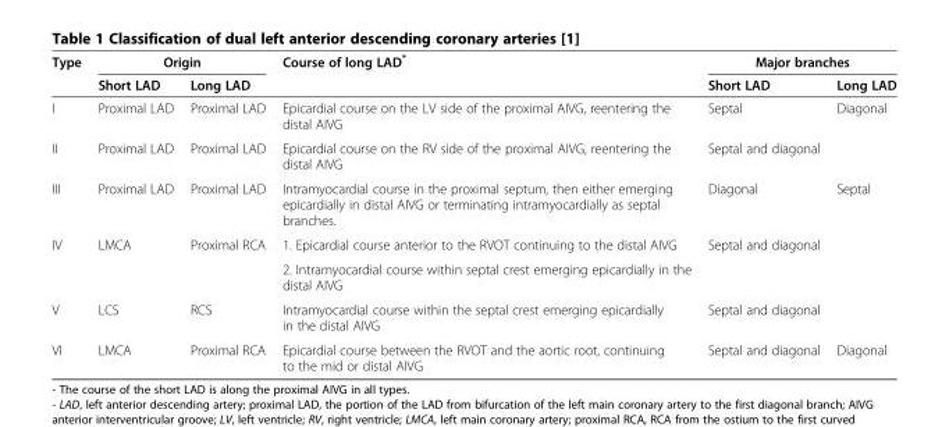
<table><thead><tr><td rowspan="2">Type</td><td colspan="2">Origin</td><td rowspan="2">Course of long LAD*</td><td colspan="2">Major branches</td></tr><tr><td>Short LAD</td><td>Long LAD</td><td>Short LAD</td><td>Long LAD</td></tr></thead><tbody><tr><td>I</td><td>Proximal LAD</td><td>Proximal LAD</td><td>Epicardial course on the LV side of the proximal AIVG, reentering the distal AIVG</td><td>Septal</td><td>Diagonal</td></tr><tr><td>II</td><td>Proximal LAD</td><td>Proximal LAD</td><td>Epicardial course on the RV side of the proximal AIVG, reentering the distal AIVG</td><td colspan="2">Septal and diagonal</td></tr><tr><td>III</td><td>Proximal LAD</td><td>Proximal LAD</td><td>Intramyocardial course in the proximal septum, then either emerging epicardially in distal AIVG or terminating intramyocardially as septal branches.</td><td>Diagonal</td><td>Septal</td></tr><tr><td rowspan="2">IV</td><td rowspan="2">LMCA</td><td rowspan="2">Proximal RCA</td><td>1. Epicardial course anterior to the RVOT continuing to the distal AIVG</td><td rowspan="2" colspan="2">Septal and diagonal</td></tr><tr><td>2. Intramyocardial course within septal crest emerging epicardially in the distal AIVG</td></tr><tr><td>V</td><td>LCS</td><td>RCS</td><td>Intramyocardial course within the septal crest emerging epicardially in the distal AIVG</td><td colspan="2">Septal and diagonal</td></tr><tr><td>VI</td><td>LMCA</td><td>Proximal RCA</td><td>Epicardial course between the RVOT and the aortic root, continuing to the mid or distal AIVG</td><td>Septal and diagonal</td><td>Diagonal</td></tr></tbody></table>